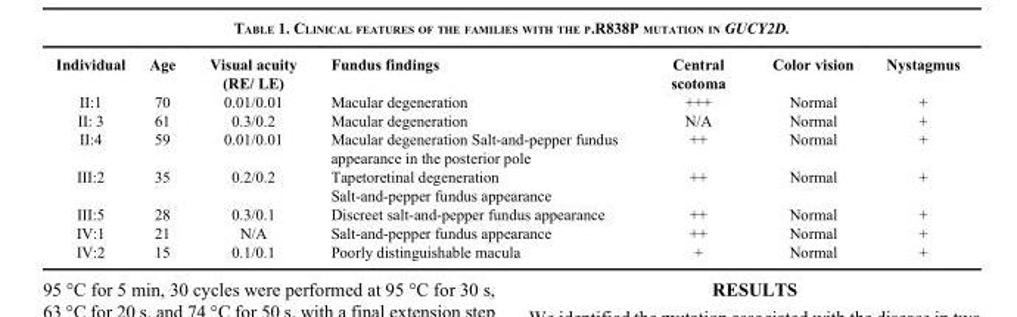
<table><thead><tr><td>Individual</td><td>Age</td><td>Visual acuity (RE/ LE)</td><td>Fundus findings</td><td>Central scotoma</td><td>Color vision</td><td>Nystagmus</td></tr></thead><tbody><tr><td>II:1</td><td>70</td><td>0.01/0.01</td><td>Macular degeneration</td><td>+++</td><td>Normal</td><td>+</td></tr><tr><td>II: 3</td><td>61</td><td>0.3/0.2</td><td>Macular degeneration</td><td>N/A</td><td>Normal</td><td>+</td></tr><tr><td>II:4</td><td>59</td><td>0.01/0.01</td><td>Macular degeneration Salt-and-pepper fundus appearance in the posterior pole</td><td>++</td><td>Normal</td><td>+</td></tr><tr><td>III:2</td><td>35</td><td>0.2/0.2</td><td>Tapetoretinal degeneration Salt-and-pepper fundus appearance</td><td>++</td><td>Normal</td><td>+</td></tr><tr><td>III:5</td><td>28</td><td>0.3/0.1</td><td>Discreet salt-and-pepper fundus appearance</td><td>++</td><td>Normal</td><td>+</td></tr><tr><td>IV:1</td><td>21</td><td>N/A</td><td>Salt-and-pepper fundus appearance</td><td>++</td><td>Normal</td><td>+</td></tr><tr><td>IV:2</td><td>15</td><td>0.1/0.1</td><td>Poorly distinguishable macula</td><td>+</td><td>Normal</td><td>+</td></tr></tbody></table>